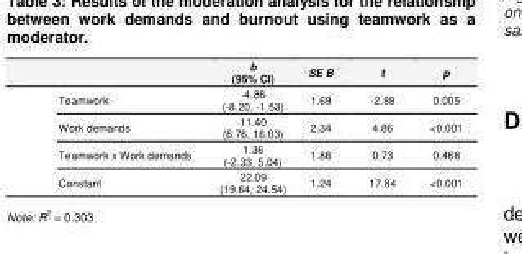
<table><thead><tr><td></td><td>b (95% CI)</td><td>SE B</td><td>t</td><td>p</td></tr></thead><tbody><tr><td>Teamwork</td><td>-4.86 (-8.20, -1.53)</td><td>1.69</td><td>-2.88</td><td>0.005</td></tr><tr><td>Work demands</td><td>11.40 (6.76, 16.03)</td><td>2.34</td><td>4.86</td><td>&lt;0.001</td></tr><tr><td>Teamwork x Work demands</td><td>1.36 (-2.33, 5.04)</td><td>1.86</td><td>0.73</td><td>0.468</td></tr><tr><td>Constant</td><td>22.09 (19.64, 24.54)</td><td>1.24</td><td>17.84</td><td>&lt;0.001</td></tr></tbody></table>